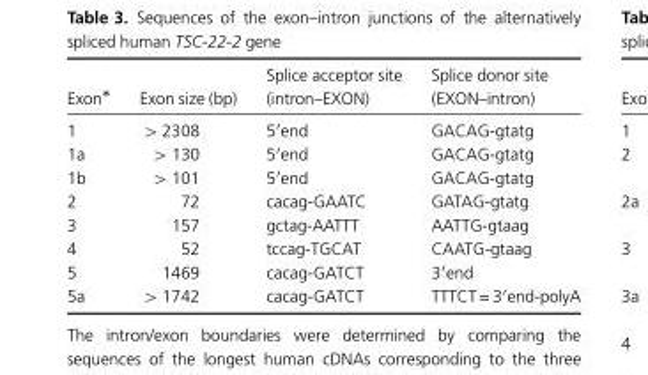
<table><thead><tr><td>Exon*</td><td>Exon size (bp)</td><td>Splice acceptor site (intron–EXON)</td><td>Splice donor site (EXON–intron)</td></tr></thead><tbody><tr><td>1</td><td>&gt; 2308</td><td>5′end</td><td>GACAG-gtatg</td></tr><tr><td>1a</td><td>&gt; 130</td><td>5′end</td><td>GACAG-gtatg</td></tr><tr><td>1b</td><td>&gt; 101</td><td>5′end</td><td>GACAG-gtatg</td></tr><tr><td>2</td><td>72</td><td>cacag-GAATC</td><td>GATAG-gtatg</td></tr><tr><td>3</td><td>157</td><td>gctag-AATTT</td><td>AATTG-gtaag</td></tr><tr><td>4</td><td>52</td><td>tccag-TGCAT</td><td>CAATG-gtaag</td></tr><tr><td>5</td><td>1469</td><td>cacag-GATCT</td><td>3′end</td></tr><tr><td>5a</td><td>&gt; 1742</td><td>cacag-GATCT</td><td>TTTCT = 3′end-polyA</td></tr></tbody></table>